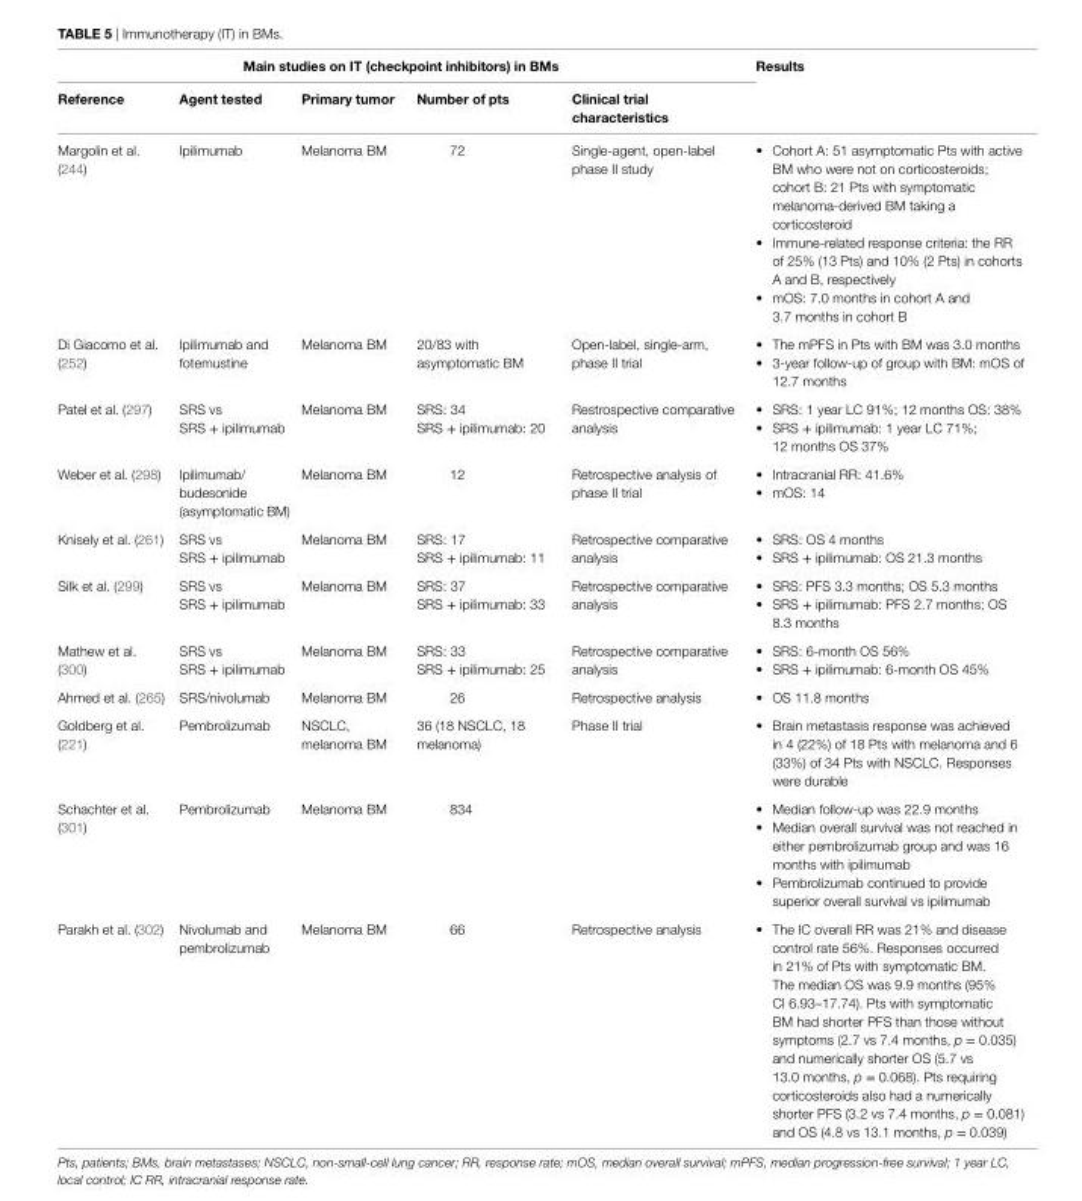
<table><thead><tr><td colspan="5">Main studies on iT (checkpoint inhibitors) in BMs</td><td rowspan="2">Results</td></tr><tr><td>Reference</td><td>Agent tested</td><td>Primary tumor</td><td>Number of pts</td><td>Clinical trial characteristics</td></tr></thead><tbody><tr><td>Margolin et al. (244)</td><td>Ipilimumab</td><td>Melanoma BM</td><td>72</td><td>Single-agent, open-label phase II study</td><td>• Cohort A: 51 asymptomatic Pts with active BM who were not on corticosteroids; cohort B: 21 Pts with symptomatic melanoma-derived BM taking a corticosteroid • Immune-related response criteria: the RR of 25% (13 Pts) and 10% (2 Pts) in cohorts A and B, respectively • mOS: 7.0 months in cohort A and 3.7 months in cohort B</td></tr><tr><td>Di Giacomo et al. (252)</td><td>Ipilimumab and fotemustine</td><td>Melanoma BM</td><td>20/83 with asymptomatic BM</td><td>Open-label, single-arm, phase II trial</td><td>• The mPFS in Pts with BM was 3.0 months • 3-year follow-up of group with BM: mOS of 12.7 months</td></tr><tr><td>Patel et al. (297)</td><td>SRS vs SRS + ipilimumab</td><td>Melanoma BM</td><td>SRS: 34 SRS + ipilimumab: 20</td><td>Restrospective comparative analysis</td><td>• SRS: 1 year LC 91%; 12 months OS: 38% • SRS + ipilimumab: 1 year LC 71%; 12 months OS 37%</td></tr><tr><td>Weber et al. (298)</td><td>Ipilimumab/ budesonide (asymptomatic BM)</td><td>Melanoma BM</td><td>12</td><td>Retrospective analysis of phase II trial</td><td>• Intracranial RR: 41.6% • mOS: 14</td></tr><tr><td>Knisely et al. (261)</td><td>SRS vs SRS + ipilimumab</td><td>Melanoma BM</td><td>SRS: 17 SRS + ipilimumab: 11</td><td>Retrospective comparative analysis</td><td>• SRS: OS 4 months • SRS + ipilimumab: OS 21.3 months</td></tr><tr><td>Silk et al. (299)</td><td>SRS vs SRS + ipilimumab</td><td>Melanoma BM</td><td>SRS: 37 SRS + ipilimumab: 33</td><td>Retrospective comparative analysis</td><td>• SRS: PFS 3.3 months; OS 5.3 months • SRS + ipilimumab: PFS 2.7 months; OS 8.3 months</td></tr><tr><td>Mathew et al. (300)</td><td>SRS vs SRS + ipilimumab</td><td>Melanoma BM</td><td>SRS: 33 SRS + ipilimumab: 25</td><td>Retrospective comparative analysis</td><td>• SRS: 6-month OS 56% • SRS + ipilimumab: 6-month OS 45%</td></tr><tr><td>Ahmed et al. (265)</td><td>SRS/nivolumab</td><td>Melanoma BM</td><td>26</td><td>Retrospective analysis</td><td>• OS 11.8 months</td></tr><tr><td>Goldberg et al. (221)</td><td>Pembrolizumab</td><td>NSCLC, melanoma BM</td><td>36 (18 NSCLC, 18 melanoma)</td><td>Phase II trial</td><td>• Brain metastasis response was achieved in 4 (22%) of 18 Pts with melanoma and 6 (33%) of 34 Pts with NSCLC. Responses were durable</td></tr><tr><td>Schachter et al. (301)</td><td>Pembrolizumab</td><td>Melanoma BM</td><td>834</td><td></td><td>• Median follow-up was 22.9 months • Median overall survival was not reached in either pembrolizumab group and was 16 months with ipilimumab • Pembrolizumab continued to provide superior overall survival vs ipilimumab</td></tr><tr><td>Parakh et al. (302)</td><td>Nivolumab and pembrolizumab</td><td>Melanoma BM</td><td>66</td><td>Retrospective analysis</td><td>• The IC overall RR was 21% and disease control rate 56%. Responses occurred in 21% of Pts with symptomatic BM. The median OS was 9.9 months (95% CI 6.93–17.74). Pts with symptomatic BM had shorter PFS than those without symptoms (2.7 vs 7.4 months, p = 0.035) and numerically shorter OS (5.7 vs 13.0 months, p = 0.068). Pts requiring corticosteroids also had a numerically shorter PFS (3.2 vs 7.4 months, p = 0.081) and OS (4.8 vs 13.1 months, p = 0.039)</td></tr></tbody></table>